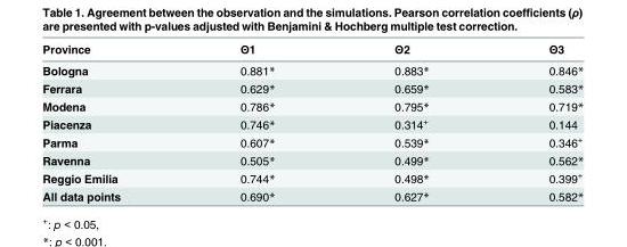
<table><thead><tr><td>Province</td><td>Θ1</td><td>Θ2</td><td>Θ3</td></tr></thead><tbody><tr><td>Bologna</td><td>0.881*</td><td>0.883*</td><td>0.846*</td></tr><tr><td>Ferrara</td><td>0.629*</td><td>0.659*</td><td>0.583*</td></tr><tr><td>Modena</td><td>0.786*</td><td>0.795*</td><td>0.719*</td></tr><tr><td>Piacenza</td><td>0.746*</td><td>0.314<sup>+</sup></td><td>0.144</td></tr><tr><td>Parma</td><td>0.607*</td><td>0.539*</td><td>0.346<sup>+</sup></td></tr><tr><td>Ravenna</td><td>0.505*</td><td>0.499*</td><td>0.562*</td></tr><tr><td>Reggio Emilia</td><td>0.744*</td><td>0.498*</td><td>0.399<sup>+</sup></td></tr><tr><td>All data points</td><td>0.690*</td><td>0.627*</td><td>0.582*</td></tr></tbody></table>